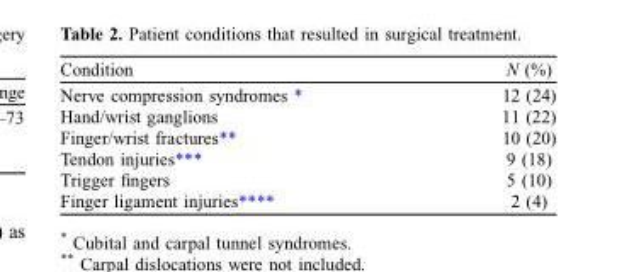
<table><thead><tr><td>Condition</td><td>N (%)</td></tr></thead><tbody><tr><td>Nerve compression syndromes *</td><td>12 (24)</td></tr><tr><td>Hand/wrist ganglions</td><td>11 (22)</td></tr><tr><td>Finger/wrist fractures**</td><td>10 (20)</td></tr><tr><td>Tendon injuries***</td><td>9 (18)</td></tr><tr><td>Trigger fingers</td><td>5 (10)</td></tr><tr><td>Finger ligament injuries****</td><td>2 (4)</td></tr></tbody></table>